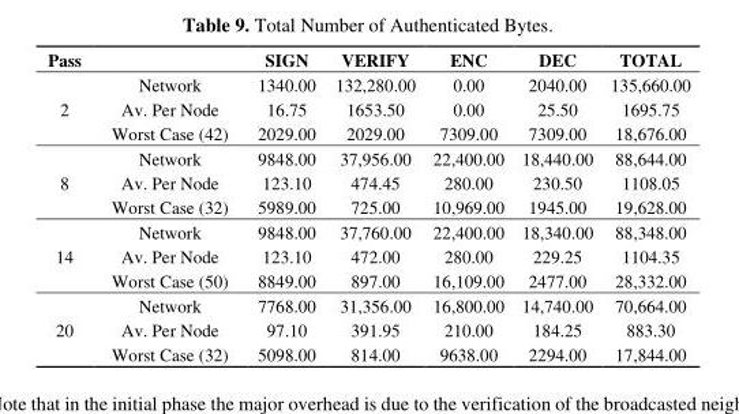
<table><thead><tr><td>Pass</td><td></td><td>SIGN</td><td>VERIFY</td><td>ENC</td><td>DEC</td><td>TOTAL</td></tr></thead><tbody><tr><td rowspan="3">2</td><td>Network</td><td>1340.00</td><td>132,280.00</td><td>0.00</td><td>2040.00</td><td>135,660.00</td></tr><tr><td>Av. Per Node</td><td>16.75</td><td>1653.50</td><td>0.00</td><td>25.50</td><td>1695.75</td></tr><tr><td>Worst Case (42)</td><td>2029.00</td><td>2029.00</td><td>7309.00</td><td>7309.00</td><td>18,676.00</td></tr><tr><td rowspan="3">8</td><td>Network</td><td>9848.00</td><td>37,956.00</td><td>22,400.00</td><td>18,440.00</td><td>88,644.00</td></tr><tr><td>Av. Per Node</td><td>123.10</td><td>474.45</td><td>280.00</td><td>230.50</td><td>1108.05</td></tr><tr><td>Worst Case (32)</td><td>5989.00</td><td>725.00</td><td>10,969.00</td><td>1945.00</td><td>19,628.00</td></tr><tr><td rowspan="3">14</td><td>Network</td><td>9848.00</td><td>37,760.00</td><td>22,400.00</td><td>18,340.00</td><td>88,348.00</td></tr><tr><td>Av. Per Node</td><td>123.10</td><td>472.00</td><td>280.00</td><td>229.25</td><td>1104.35</td></tr><tr><td>Worst Case (50)</td><td>8849.00</td><td>897.00</td><td>16,109.00</td><td>2477.00</td><td>28,332.00</td></tr><tr><td rowspan="3">20</td><td>Network</td><td>7768.00</td><td>31,356.00</td><td>16,800.00</td><td>14,740.00</td><td>70,664.00</td></tr><tr><td>Av. Per Node</td><td>97.10</td><td>391.95</td><td>210.00</td><td>184.25</td><td>883.30</td></tr><tr><td>Worst Case (32)</td><td>5098.00</td><td>814.00</td><td>9638.00</td><td>2294.00</td><td>17,844.00</td></tr></tbody></table>